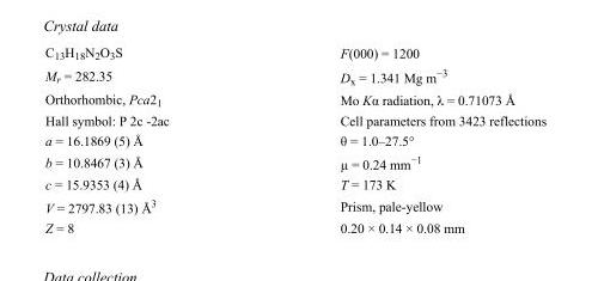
<table><tbody><tr><td>C<sub>13</sub>H<sub>18</sub>N<sub>2</sub>O<sub>3</sub>S</td><td>F(000) = 1200</td></tr><tr><td>M<sub>r</sub> = 282.35</td><td>D<sub>x</sub> = 1.341 Mg m<sup>−3</sup></td></tr><tr><td>Orthorhombic, Pca2<sub>1</sub></td><td>Mo Kα radiation, λ = 0.71073 Å</td></tr><tr><td>Hall symbol: P 2c -2ac</td><td>Cell parameters from 3423 reflections</td></tr><tr><td>a = 16.1869 (5) Å</td><td>θ = 1.0–27.5°</td></tr><tr><td>b = 10.8467 (3) Å</td><td>µ = 0.24 mm<sup>−1</sup></td></tr><tr><td>c = 15.9353 (4) Å</td><td>T = 173 K</td></tr><tr><td>V = 2797.83 (13) Å<sup>3</sup></td><td>Prism, pale-yellow</td></tr><tr><td>Z = 8</td><td>0.20 × 0.14 × 0.08 mm</td></tr></tbody></table>